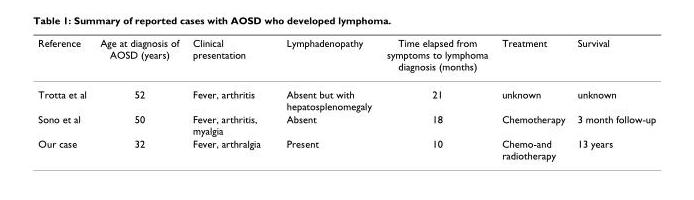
<table><thead><tr><td>Reference</td><td>Age at diagnosis of AOSD (years)</td><td>Clinical presentation</td><td>Lymphadenopathy</td><td>Time elapsed from symptoms to lymphoma diagnosis (months)</td><td>Treatment</td><td>Survival</td></tr></thead><tbody><tr><td>Trotta et al</td><td>52</td><td>Fever, arthritis</td><td>Absent but with hepatosplenomegaly</td><td>21</td><td>unknown</td><td>unknown</td></tr><tr><td>Sono et al</td><td>50</td><td>Fever, arthritis, myalgia</td><td>Absent</td><td>18</td><td>Chemotherapy</td><td>3 month follow-up</td></tr><tr><td>Our case</td><td>32</td><td>Fever, arthralgia</td><td>Present</td><td>10</td><td>Chemo-and radiotherapy</td><td>13 years</td></tr></tbody></table>